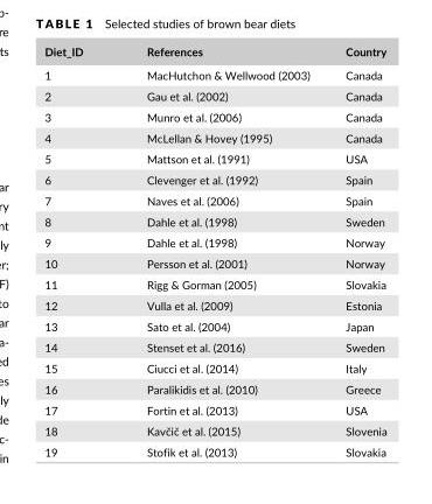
<table><thead><tr><td>Diet_ID</td><td>References</td><td>Country</td></tr></thead><tbody><tr><td>1</td><td>MacHutchon &amp; Wellwood (2003)</td><td>Canada</td></tr><tr><td>2</td><td>Gau et al. (2002)</td><td>Canada</td></tr><tr><td>3</td><td>Munro et al. (2006)</td><td>Canada</td></tr><tr><td>4</td><td>McLellan &amp; Hovey (1995)</td><td>Canada</td></tr><tr><td>5</td><td>Mattson et al. (1991)</td><td>USA</td></tr><tr><td>6</td><td>Clevenger et al. (1992)</td><td>Spain</td></tr><tr><td>7</td><td>Naves et al. (2006)</td><td>Spain</td></tr><tr><td>8</td><td>Dahle et al. (1998)</td><td>Sweden</td></tr><tr><td>9</td><td>Dahle et al. (1998)</td><td>Norway</td></tr><tr><td>10</td><td>Persson et al. (2001)</td><td>Norway</td></tr><tr><td>11</td><td>Rigg &amp; Gorman (2005)</td><td>Slovakia</td></tr><tr><td>12</td><td>Vulla et al. (2009)</td><td>Estonia</td></tr><tr><td>13</td><td>Sato et al. (2004)</td><td>Japan</td></tr><tr><td>14</td><td>Stenset et al. (2016)</td><td>Sweden</td></tr><tr><td>15</td><td>Ciucci et al. (2014)</td><td>Italy</td></tr><tr><td>16</td><td>Paralikidis et al. (2010)</td><td>Greece</td></tr><tr><td>17</td><td>Fortin et al. (2013)</td><td>USA</td></tr><tr><td>18</td><td>Kavčič et al. (2015)</td><td>Slovenia</td></tr><tr><td>19</td><td>Stofik et al. (2013)</td><td>Slovakia</td></tr></tbody></table>